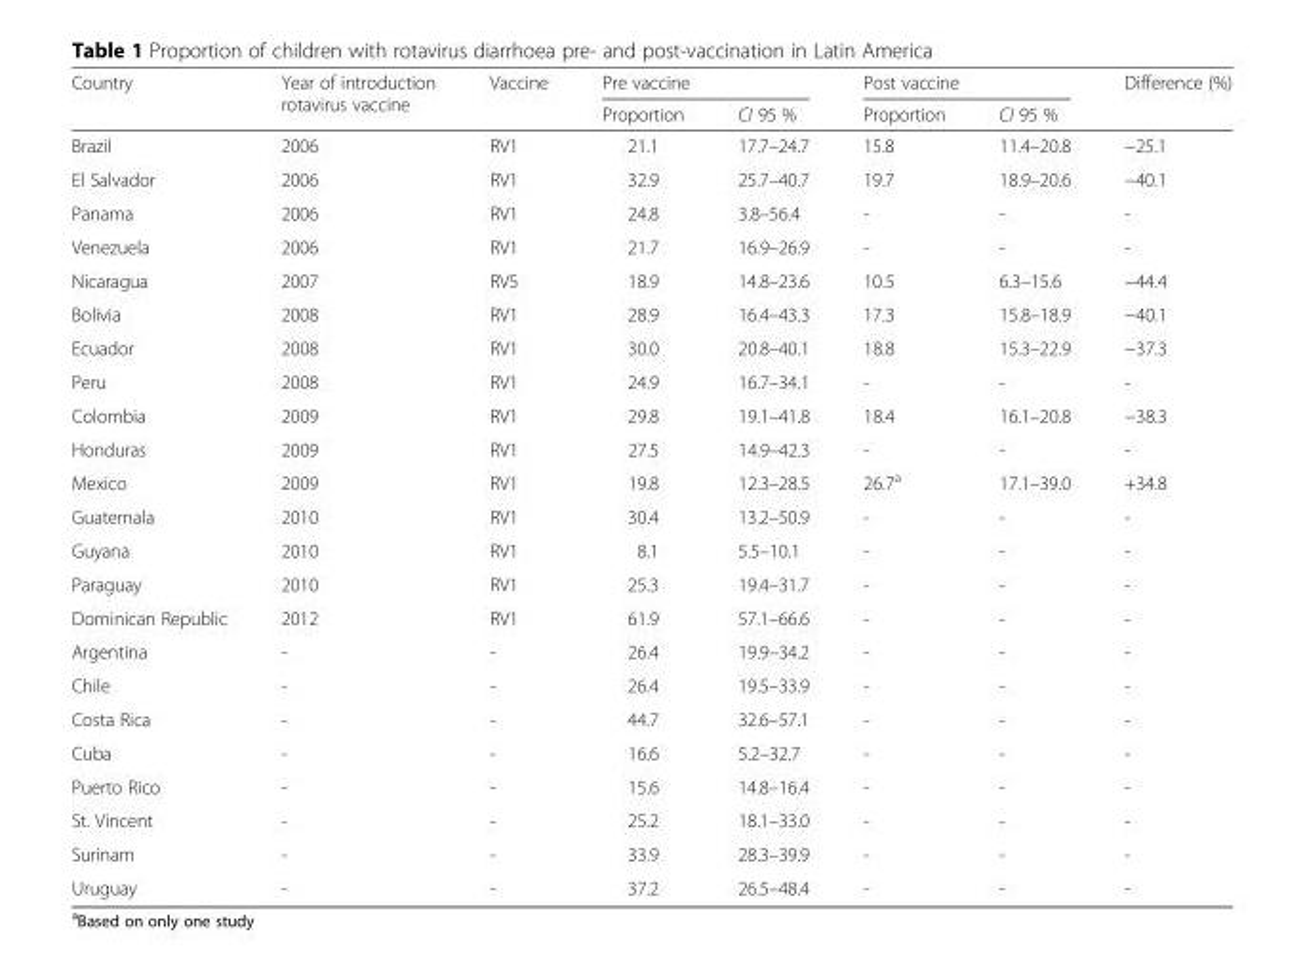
<table><thead><tr><td rowspan="2">Country</td><td rowspan="2">Year of introduction rotavirus vaccine</td><td rowspan="2">Vaccine</td><td colspan="2">Pre vaccine</td><td colspan="2">Post vaccine</td><td rowspan="2">Difference (%)</td></tr><tr><td>Proportion</td><td>CI 95 %</td><td>Proportion</td><td>CI 95 %</td></tr></thead><tbody><tr><td>Brazil</td><td>2006</td><td>RV1</td><td>21.1</td><td>17.7–24.7</td><td>15.8</td><td>11.4–20.8</td><td>−25.1</td></tr><tr><td>El Salvador</td><td>2006</td><td>RV1</td><td>32.9</td><td>25.7–40.7</td><td>19.7</td><td>18.9–20.6</td><td>−40.1</td></tr><tr><td>Panama</td><td>2006</td><td>RV1</td><td>24.8</td><td>3.8–56.4</td><td>-</td><td>-</td><td>-</td></tr><tr><td>Venezuela</td><td>2006</td><td>RV1</td><td>21.7</td><td>16.9–26.9</td><td>-</td><td>-</td><td>-</td></tr><tr><td>Nicaragua</td><td>2007</td><td>RV5</td><td>18.9</td><td>14.8–23.6</td><td>10.5</td><td>6.3–15.6</td><td>−44.4</td></tr><tr><td>Bolivia</td><td>2008</td><td>RV1</td><td>28.9</td><td>16.4–43.3</td><td>17.3</td><td>15.8–18.9</td><td>−40.1</td></tr><tr><td>Ecuador</td><td>2008</td><td>RV1</td><td>30.0</td><td>20.8–40.1</td><td>18.8</td><td>15.3–22.9</td><td>−37.3</td></tr><tr><td>Peru</td><td>2008</td><td>RV1</td><td>24.9</td><td>16.7–34.1</td><td>-</td><td>-</td><td>-</td></tr><tr><td>Colombia</td><td>2009</td><td>RV1</td><td>29.8</td><td>19.1–41.8</td><td>18.4</td><td>16.1–20.8</td><td>−38.3</td></tr><tr><td>Honduras</td><td>2009</td><td>RV1</td><td>27.5</td><td>14.9–42.3</td><td>-</td><td>-</td><td>-</td></tr><tr><td>Mexico</td><td>2009</td><td>RV1</td><td>19.8</td><td>12.3–28.5</td><td>26.7<sup>a</sup></td><td>17.1–39.0</td><td>+34.8</td></tr><tr><td>Guatemala</td><td>2010</td><td>RV1</td><td>30.4</td><td>13.2–50.9</td><td>-</td><td>-</td><td>-</td></tr><tr><td>Guyana</td><td>2010</td><td>RV1</td><td>8.1</td><td>5.5–10.1</td><td>-</td><td>-</td><td>-</td></tr><tr><td>Paraguay</td><td>2010</td><td>RV1</td><td>25.3</td><td>19.4–31.7</td><td>-</td><td>-</td><td>-</td></tr><tr><td>Dominican Republic</td><td>2012</td><td>RV1</td><td>61.9</td><td>57.1–66.6</td><td>-</td><td>-</td><td>-</td></tr><tr><td>Argentina</td><td>-</td><td>-</td><td>26.4</td><td>19.9–34.2</td><td>-</td><td>-</td><td>-</td></tr><tr><td>Chile</td><td>-</td><td>-</td><td>26.4</td><td>19.5–33.9</td><td>-</td><td>-</td><td>-</td></tr><tr><td>Costa Rica</td><td>-</td><td>-</td><td>44.7</td><td>32.6–57.1</td><td>-</td><td>-</td><td>-</td></tr><tr><td>Cuba</td><td>-</td><td>-</td><td>16.6</td><td>5.2–32.7</td><td>-</td><td>-</td><td>-</td></tr><tr><td>Puerto Rico</td><td>-</td><td>-</td><td>15.6</td><td>14.8–16.4</td><td>-</td><td>-</td><td>-</td></tr><tr><td>St. Vincent</td><td>-</td><td>-</td><td>25.2</td><td>18.1–33.0</td><td>-</td><td>-</td><td>-</td></tr><tr><td>Surinam</td><td>-</td><td>-</td><td>33.9</td><td>28.3–39.9</td><td>-</td><td>-</td><td>-</td></tr><tr><td>Uruguay</td><td>-</td><td>-</td><td>37.2</td><td>26.5–48.4</td><td>-</td><td>-</td><td>-</td></tr></tbody></table>